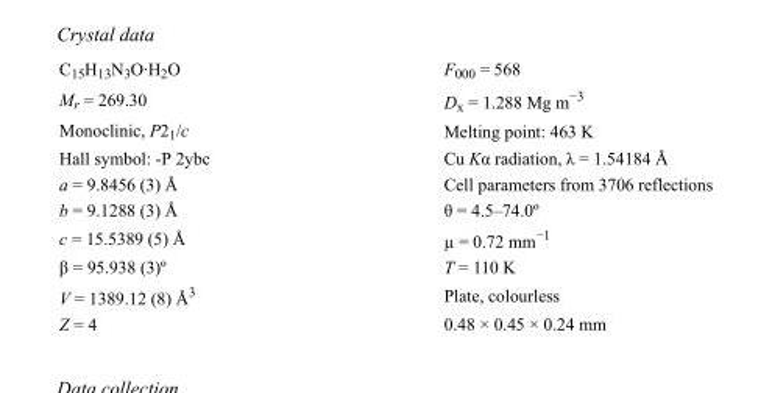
<table><tbody><tr><td>C<sub>15</sub>H<sub>13</sub>N<sub>3</sub>O·H<sub>2</sub>O</td><td>F000 = 568</td></tr><tr><td>M<sub>r</sub> = 269.30</td><td>D<sub>x</sub> = 1.288 Mg m<sup>−3</sup></td></tr><tr><td>Monoclinic, P2<sub>1</sub>/c</td><td>Melting point: 463 K</td></tr><tr><td>Hall symbol: -P 2ybc</td><td>Cu Kα radiation, λ = 1.54184 Å</td></tr><tr><td>a = 9.8456 (3) Å</td><td>Cell parameters from 3706 reflections</td></tr><tr><td>b = 9.1288 (3) Å</td><td>θ = 4.5–74.0º</td></tr><tr><td>c = 15.5389 (5) Å</td><td>µ = 0.72 mm<sup>−1</sup></td></tr><tr><td>β = 95.938 (3)º</td><td>T = 110 K</td></tr><tr><td>V = 1389.12 (8) Å<sup>3</sup></td><td>Plate, colourless</td></tr><tr><td>Z = 4</td><td>0.48 × 0.45 × 0.24 mm</td></tr></tbody></table>